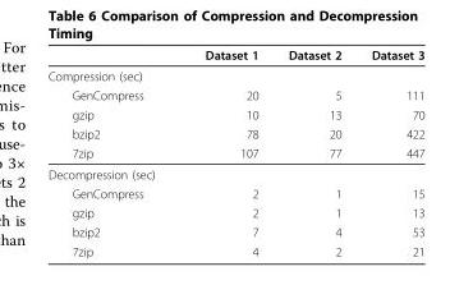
<table><thead><tr><td></td><td>Dataset 1</td><td>Dataset 2</td><td>Dataset 3</td></tr></thead><tbody><tr><td colspan="4">Compression (sec)</td></tr><tr><td>GenCompress</td><td>20</td><td>5</td><td>111</td></tr><tr><td>gzip</td><td>10</td><td>13</td><td>70</td></tr><tr><td>bzip2</td><td>78</td><td>20</td><td>422</td></tr><tr><td>7zip</td><td>107</td><td>77</td><td>447</td></tr><tr><td colspan="4">Decompression (sec)</td></tr><tr><td>GenCompress</td><td>2</td><td>1</td><td>15</td></tr><tr><td>gzip</td><td>2</td><td>1</td><td>13</td></tr><tr><td>bzip2</td><td>7</td><td>4</td><td>53</td></tr><tr><td>7zip</td><td>4</td><td>2</td><td>21</td></tr></tbody></table>